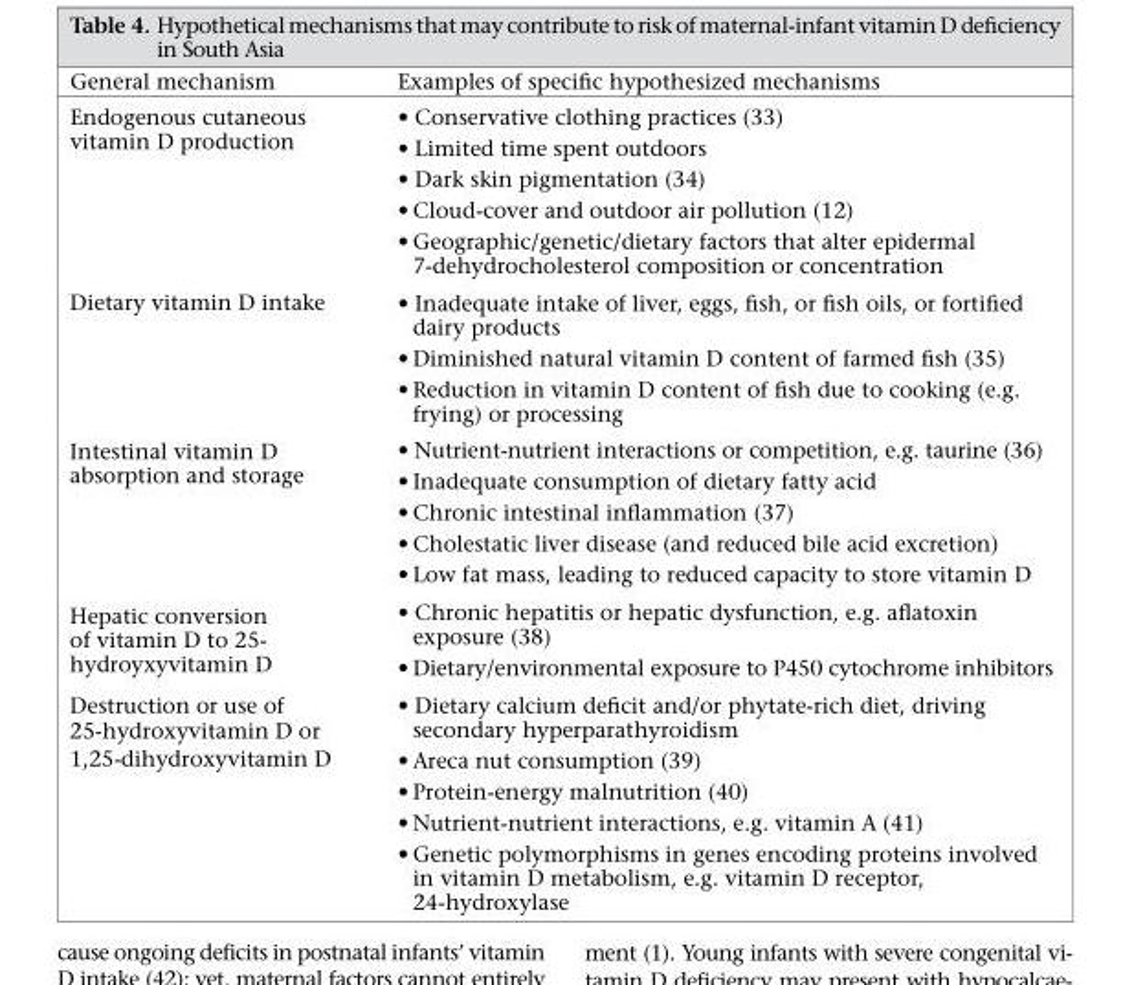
<table><thead><tr><td>General mechanism</td><td>Examples of specific hypothesized mechanisms</td></tr></thead><tbody><tr><td>Endogenous cutaneous vitamin D production</td><td>• Conservative clothing practices (33) • Limited time spent outdoors • Dark skin pigmentation (34) • Cloud-cover and outdoor air pollution (12) • Geographic/genetic/dietary factors that alter epidermal 7-dehydrocholesterol composition or concentration</td></tr><tr><td>Dietary vitamin D intake</td><td>• Inadequate intake of liver, eggs, fish, or fish oils, or fortified dairy products • Diminished natural vitamin D content of farmed fish (35) • Reduction in vitamin D content of fish due to cooking (e.g. frying) or processing</td></tr><tr><td>Intestinal vitamin D absorption and storage</td><td>• Nutrient-nutrient interactions or competition, e.g. taurine (36) • Inadequate consumption of dietary fatty acid • Chronic intestinal inflammation (37) • Cholestatic liver disease (and reduced bile acid excretion) • Low fat mass, leading to reduced capacity to store vitamin D</td></tr><tr><td>Hepatic conversion of vitamin D to 25- hydroyxyvitamin D</td><td>• Chronic hepatitis or hepatic dysfunction, e.g. aflatoxin exposure (38) • Dietary/environmental exposure to P450 cytochrome inhibitors</td></tr><tr><td>Destruction or use of 25-hydroxyvitamin D or 1,25-dihydroxyvitamin D</td><td>• Dietary calcium deficit and/or phytate-rich diet, driving secondary hyperparathyroidism • Areca nut consumption (39) • Protein-energy malnutrition (40) • Nutrient-nutrient interactions, e.g. vitamin A (41) • Genetic polymorphisms in genes encoding proteins involved in vitamin D metabolism, e.g. vitamin D receptor, 24-hydroxylase</td></tr></tbody></table>